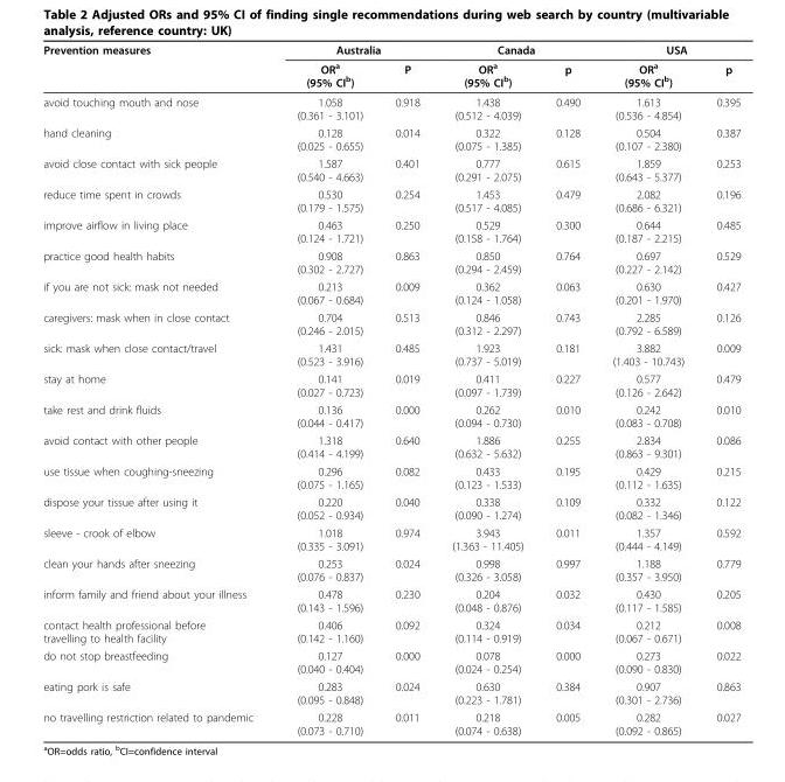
<table><thead><tr><td rowspan="2">Prevention measures</td><td colspan="2">Australia</td><td colspan="2">Canada</td><td colspan="2">USA</td></tr><tr><td>OR<sup>a</sup> (95% CI<sup>b</sup>)</td><td>P</td><td>OR<sup>a</sup> (95% CI<sup>b</sup>)</td><td>p</td><td>OR<sup>a</sup> (95% CI<sup>b</sup>)</td><td>p</td></tr></thead><tbody><tr><td>avoid touching mouth and nose</td><td>1.058 (0.361 - 3.101)</td><td>0.918</td><td>1.438 (0.512 - 4.039)</td><td>0.490</td><td>1.613 (0.536 - 4.854)</td><td>0.395</td></tr><tr><td>hand cleaning</td><td>0.128 (0.025 - 0.655)</td><td>0.014</td><td>0.322 (0.075 - 1.385)</td><td>0.128</td><td>0.504 (0.107 - 2.380)</td><td>0.387</td></tr><tr><td>avoid close contact with sick people</td><td>1.587 (0.540 - 4.663)</td><td>0.401</td><td>0.777 (0.291 - 2.075)</td><td>0.615</td><td>1.859 (0.643 - 5.377)</td><td>0.253</td></tr><tr><td>reduce time spent in crowds</td><td>0.530 (0.179 - 1.575)</td><td>0.254</td><td>1.453 (0.517 - 4.085)</td><td>0.479</td><td>2.082 (0.686 - 6.321)</td><td>0.196</td></tr><tr><td>improve airflow in living place</td><td>0.463 (0.124 - 1.721)</td><td>0.250</td><td>0.529 (0.158 - 1.764)</td><td>0.300</td><td>0.644 (0.187 - 2.215)</td><td>0.485</td></tr><tr><td>practice good health habits</td><td>0.908 (0.302 - 2.727)</td><td>0.863</td><td>0.850 (0.294 - 2.459)</td><td>0.764</td><td>0.697 (0.227 - 2.142)</td><td>0.529</td></tr><tr><td>if you are not sick: mask not needed</td><td>0.213 (0.067 - 0.684)</td><td>0.009</td><td>0.362 (0.124 - 1.058)</td><td>0.063</td><td>0.630 (0.201 - 1.970)</td><td>0.427</td></tr><tr><td>caregivers: mask when in close contact</td><td>0.704 (0.246 - 2.015)</td><td>0.513</td><td>0.846 (0.312 - 2.297)</td><td>0.743</td><td>2.285 (0.792 - 6.589)</td><td>0.126</td></tr><tr><td>sick: mask when close contact/travel</td><td>1.431 (0.523 - 3.916)</td><td>0.485</td><td>1.923 (0.737 - 5.019)</td><td>0.181</td><td>3.882 (1.403 - 10.743)</td><td>0.009</td></tr><tr><td>stay at home</td><td>0.141 (0.027 - 0.723)</td><td>0.019</td><td>0.411 (0.097 - 1.739)</td><td>0.227</td><td>0.577 (0.126 - 2.642)</td><td>0.479</td></tr><tr><td>take rest and drink fluids</td><td>0.136 (0.044 - 0.417)</td><td>0.000</td><td>0.262 (0.094 - 0.730)</td><td>0.010</td><td>0.242 (0.083 - 0.708)</td><td>0.010</td></tr><tr><td>avoid contact with other people</td><td>1.318 (0.414 - 4.199)</td><td>0.640</td><td>1.886 (0.632 - 5.632)</td><td>0.255</td><td>2.834 (0.863 - 9.301)</td><td>0.086</td></tr><tr><td>use tissue when coughing-sneezing</td><td>0.296 (0.075 - 1.165)</td><td>0.082</td><td>0.433 (0.123 - 1.533)</td><td>0.195</td><td>0.429 (0.112 - 1.635)</td><td>0.215</td></tr><tr><td>dispose your tissue after using it</td><td>0.220 (0.052 - 0.934)</td><td>0.040</td><td>0.338 (0.090 - 1.274)</td><td>0.109</td><td>0.332 (0.082 - 1.346)</td><td>0.122</td></tr><tr><td>sleeve - crook of elbow</td><td>1.018 (0.335 - 3.091)</td><td>0.974</td><td>3.943 (1.363 - 11.405)</td><td>0.011</td><td>1.357 (0.444 - 4.149)</td><td>0.592</td></tr><tr><td>clean your hands after sneezing</td><td>0.253 (0.076 - 0.837)</td><td>0.024</td><td>0.998 (0.326 - 3.058)</td><td>0.997</td><td>1.188 (0.357 - 3.950)</td><td>0.779</td></tr><tr><td>inform family and friend about your illness</td><td>0.478 (0.143 - 1.596)</td><td>0.230</td><td>0.204 (0.048 - 0.876)</td><td>0.032</td><td>0.430 (0.117 - 1.585)</td><td>0.205</td></tr><tr><td>contact health professional before travelling to health facility</td><td>0.406 (0.142 - 1.160)</td><td>0.092</td><td>0.324 (0.114 - 0.919)</td><td>0.034</td><td>0.212 (0.067 - 0.671)</td><td>0.008</td></tr><tr><td>do not stop breastfeeding</td><td>0.127 (0.040 - 0.404)</td><td>0.000</td><td>0.078 (0.024 - 0.254)</td><td>0.000</td><td>0.273 (0.090 - 0.830)</td><td>0.022</td></tr><tr><td>eating pork is safe</td><td>0.283 (0.095 - 0.848)</td><td>0.024</td><td>0.630 (0.223 - 1.781)</td><td>0.384</td><td>0.907 (0.301 - 2.736)</td><td>0.863</td></tr><tr><td>no travelling restriction related to pandemic</td><td>0.228 (0.073 - 0.710)</td><td>0.011</td><td>0.218 (0.074 - 0.638)</td><td>0.005</td><td>0.282 (0.092 - 0.865)</td><td>0.027</td></tr></tbody></table>